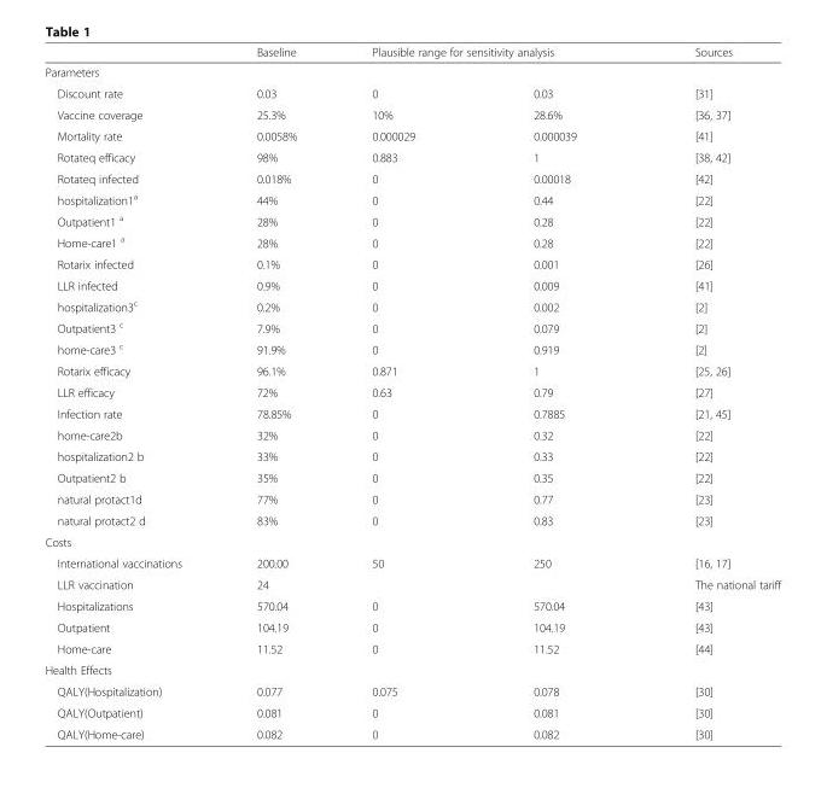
<table><thead><tr><td></td><td>Baseline</td><td colspan="2">Plausible range for sensitivity analysis</td><td>Sources</td></tr><tr><td colspan="5">Parameters</td></tr><tr><td>Discount rate</td><td>0.03</td><td>0</td><td>0.03</td><td>[31]</td></tr></thead><tbody><tr><td>Vaccine coverage</td><td>25.3%</td><td>10%</td><td>28.6%</td><td>[36, 37]</td></tr><tr><td>Mortality rate</td><td>0.0058%</td><td>0.000029</td><td>0.000039</td><td>[41]</td></tr><tr><td>Rotateq efficacy</td><td>98%</td><td>0.883</td><td>1</td><td>[38, 42]</td></tr><tr><td>Rotateq infected</td><td>0.018%</td><td>0</td><td>0.00018</td><td>[42]</td></tr><tr><td>hospitalization1<sup>a</sup></td><td>44%</td><td>0</td><td>0.44</td><td>[22]</td></tr><tr><td>Outpatient1 <sup>a</sup></td><td>28%</td><td>0</td><td>0.28</td><td>[22]</td></tr><tr><td>Home-care1 <sup>a</sup></td><td>28%</td><td>0</td><td>0.28</td><td>[22]</td></tr><tr><td>Rotarix infected</td><td>0.1%</td><td>0</td><td>0.001</td><td>[26]</td></tr><tr><td>LLR infected</td><td>0.9%</td><td>0</td><td>0.009</td><td>[41]</td></tr><tr><td>hospitalization3<sup>c</sup></td><td>0.2%</td><td>0</td><td>0.002</td><td>[2]</td></tr><tr><td>Outpatient3 <sup>c</sup></td><td>7.9%</td><td>0</td><td>0.079</td><td>[2]</td></tr><tr><td>home-care3 <sup>c</sup></td><td>91.9%</td><td>0</td><td>0.919</td><td>[2]</td></tr><tr><td>Rotarix efficacy</td><td>96.1%</td><td>0.871</td><td>1</td><td>[25, 26]</td></tr><tr><td>LLR efficacy</td><td>72%</td><td>0.63</td><td>0.79</td><td>[27]</td></tr><tr><td>Infection rate</td><td>78.85%</td><td>0</td><td>0.7885</td><td>[21, 45]</td></tr><tr><td>home-care2b</td><td>32%</td><td>0</td><td>0.32</td><td>[22]</td></tr><tr><td>hospitalization2 b</td><td>33%</td><td>0</td><td>0.33</td><td>[22]</td></tr><tr><td>Outpatient2 b</td><td>35%</td><td>0</td><td>0.35</td><td>[22]</td></tr><tr><td>natural protact1d</td><td>77%</td><td>0</td><td>0.77</td><td>[23]</td></tr><tr><td>natural protact2 d</td><td>83%</td><td>0</td><td>0.83</td><td>[23]</td></tr><tr><td colspan="5">Costs</td></tr><tr><td>International vaccinations</td><td>200.00</td><td>50</td><td>250</td><td>[16, 17]</td></tr><tr><td>LLR vaccination</td><td>24</td><td></td><td></td><td>The national tariff</td></tr><tr><td>Hospitalizations</td><td>570.04</td><td>0</td><td>570.04</td><td>[43]</td></tr><tr><td>Outpatient</td><td>104.19</td><td>0</td><td>104.19</td><td>[43]</td></tr><tr><td>Home-care</td><td>11.52</td><td>0</td><td>11.52</td><td>[44]</td></tr><tr><td colspan="5">Health Effects</td></tr><tr><td>QALY(Hospitalization)</td><td>0.077</td><td>0.075</td><td>0.078</td><td>[30]</td></tr><tr><td>QALY(Outpatient)</td><td>0.081</td><td>0</td><td>0.081</td><td>[30]</td></tr><tr><td>QALY(Home-care)</td><td>0.082</td><td>0</td><td>0.082</td><td>[30]</td></tr></tbody></table>